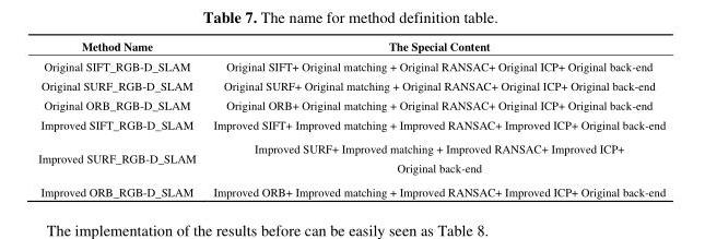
<table><thead><tr><td>Method Name</td><td>The Special Content</td></tr></thead><tbody><tr><td>Original SIFT_RGB-D_SLAM</td><td>Original SIFT+ Original matching + Original RANSAC+ Original ICP+ Original back-end</td></tr><tr><td>Original SURF_RGB-D_SLAM</td><td>Original SURF+ Original matching + Original RANSAC+ Original ICP+ Original back-end</td></tr><tr><td>Original ORB_RGB-D_SLAM</td><td>Original ORB+ Original matching + Original RANSAC+ Original ICP+ Original back-end</td></tr><tr><td>Improved SIFT_RGB-D_SLAM</td><td>Improved SIFT+ Improved matching + Improved RANSAC+ Improved ICP+ Original back-end</td></tr><tr><td>Improved SURF_RGB-D_SLAM</td><td>Improved SURF+ Improved matching + Improved RANSAC+ Improved ICP+ Original back-end</td></tr><tr><td>Improved ORB_RGB-D_SLAM</td><td>Improved ORB+ Improved matching + Improved RANSAC+ Improved ICP+ Original back-end</td></tr></tbody></table>